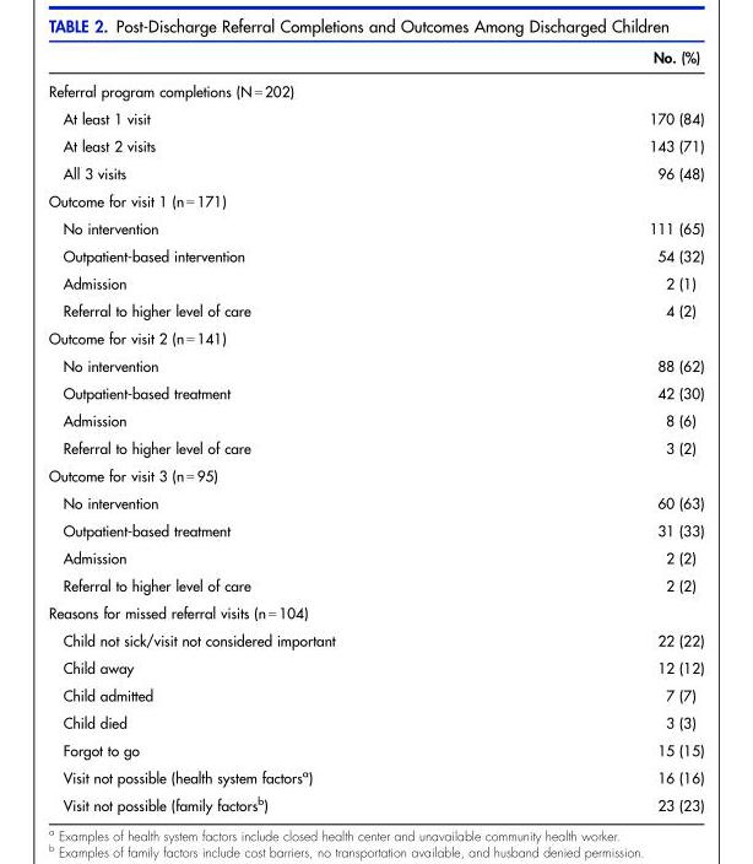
<table><thead><tr><td></td><td>No. (%)</td></tr></thead><tbody><tr><td colspan="2">Referral program completions (N = 202)</td></tr><tr><td>At least 1 visit</td><td>170 (84)</td></tr><tr><td>At least 2 visits</td><td>143 (71)</td></tr><tr><td>All 3 visits</td><td>96 (48)</td></tr><tr><td colspan="2">Outcome for visit 1 (n = 171)</td></tr><tr><td>No intervention</td><td>111 (65)</td></tr><tr><td>Outpatient-based intervention</td><td>54 (32)</td></tr><tr><td>Admission</td><td>2 (1)</td></tr><tr><td>Referral to higher level of care</td><td>4 (2)</td></tr><tr><td colspan="2">Outcome for visit 2 (n = 141)</td></tr><tr><td>No intervention</td><td>88 (62)</td></tr><tr><td>Outpatient-based treatment</td><td>42 (30)</td></tr><tr><td>Admission</td><td>8 (6)</td></tr><tr><td>Referral to higher level of care</td><td>3 (2)</td></tr><tr><td colspan="2">Outcome for visit 3 (n = 95)</td></tr><tr><td>No intervention</td><td>60 (63)</td></tr><tr><td>Outpatient-based treatment</td><td>31 (33)</td></tr><tr><td>Admission</td><td>2 (2)</td></tr><tr><td>Referral to higher level of care</td><td>2 (2)</td></tr><tr><td colspan="2">Reasons for missed referral visits (n = 104)</td></tr><tr><td>Child not sick/visit not considered important</td><td>22 (22)</td></tr><tr><td>Child away</td><td>12 (12)</td></tr><tr><td>Child admitted</td><td>7 (7)</td></tr><tr><td>Child died</td><td>3 (3)</td></tr><tr><td>Forgot to go</td><td>15 (15)</td></tr><tr><td>Visit not possible (health system factors<sup>a</sup>)</td><td>16 (16)</td></tr><tr><td>Visit not possible (family factors<sup>b</sup>)</td><td>23 (23)</td></tr></tbody></table>